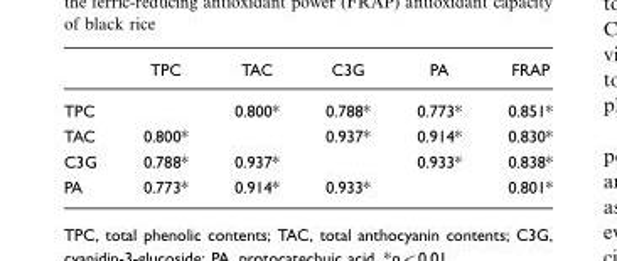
<table><thead><tr><td></td><td>TPC</td><td>TAC</td><td>C3G</td><td>PA</td><td>FRAP</td></tr></thead><tbody><tr><td>TPC</td><td></td><td>0.800*</td><td>0.788*</td><td>0.773*</td><td>0.851*</td></tr><tr><td>TAC</td><td>0.800*</td><td></td><td>0.937*</td><td>0.914*</td><td>0.830*</td></tr><tr><td>C3G</td><td>0.788*</td><td>0.937*</td><td></td><td>0.933*</td><td>0.838*</td></tr><tr><td>PA</td><td>0.773*</td><td>0.914*</td><td>0.933*</td><td></td><td>0.801*</td></tr></tbody></table>